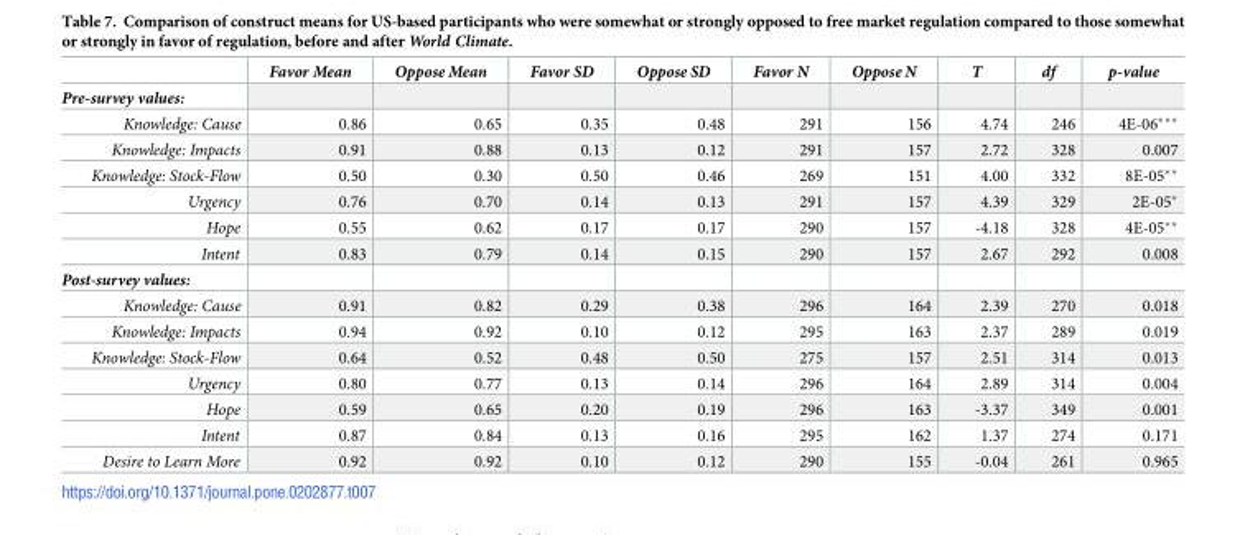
<table><thead><tr><td></td><td>Favor Mean</td><td>Oppose Mean</td><td>Favor SD</td><td>Oppose SD</td><td>Favor N</td><td>Oppose N</td><td>T</td><td>df</td><td>p-value</td></tr></thead><tbody><tr><td colspan="10">Pre-survey values:</td></tr><tr><td>Knowledge: Cause</td><td>0.86</td><td>0.65</td><td>0.35</td><td>0.48</td><td>291</td><td>156</td><td>4.74</td><td>246</td><td>4E-06***</td></tr><tr><td>Knowledge: Impacts</td><td>0.91</td><td>0.88</td><td>0.13</td><td>0.12</td><td>291</td><td>157</td><td>2.72</td><td>328</td><td>0.007</td></tr><tr><td>Knowledge: Stock-Flow</td><td>0.50</td><td>0.30</td><td>0.50</td><td>0.46</td><td>269</td><td>151</td><td>4.00</td><td>332</td><td>8E-05**</td></tr><tr><td>Urgency</td><td>0.76</td><td>0.70</td><td>0.14</td><td>0.13</td><td>291</td><td>157</td><td>4.39</td><td>329</td><td>2E-05*</td></tr><tr><td>Hope</td><td>0.55</td><td>0.62</td><td>0.17</td><td>0.17</td><td>290</td><td>157</td><td>-4.18</td><td>328</td><td>4E-05**</td></tr><tr><td>Intent</td><td>0.83</td><td>0.79</td><td>0.14</td><td>0.15</td><td>290</td><td>157</td><td>2.67</td><td>292</td><td>0.008</td></tr><tr><td colspan="10">Post-survey values:</td></tr><tr><td>Knowledge: Cause</td><td>0.91</td><td>0.82</td><td>0.29</td><td>0.38</td><td>296</td><td>164</td><td>2.39</td><td>270</td><td>0.018</td></tr><tr><td>Knowledge: Impacts</td><td>0.94</td><td>0.92</td><td>0.10</td><td>0.12</td><td>295</td><td>163</td><td>2.37</td><td>289</td><td>0.019</td></tr><tr><td>Knowledge: Stock-Flow</td><td>0.64</td><td>0.52</td><td>0.48</td><td>0.50</td><td>275</td><td>157</td><td>2.51</td><td>314</td><td>0.013</td></tr><tr><td>Urgency</td><td>0.80</td><td>0.77</td><td>0.13</td><td>0.14</td><td>296</td><td>164</td><td>2.89</td><td>314</td><td>0.004</td></tr><tr><td>Hope</td><td>0.59</td><td>0.65</td><td>0.20</td><td>0.19</td><td>296</td><td>163</td><td>-3.37</td><td>349</td><td>0.001</td></tr><tr><td>Intent</td><td>0.87</td><td>0.84</td><td>0.13</td><td>0.16</td><td>295</td><td>162</td><td>1.37</td><td>274</td><td>0.171</td></tr><tr><td>Desire to Learn More</td><td>0.92</td><td>0.92</td><td>0.10</td><td>0.12</td><td>290</td><td>155</td><td>-0.04</td><td>261</td><td>0.965</td></tr></tbody></table>